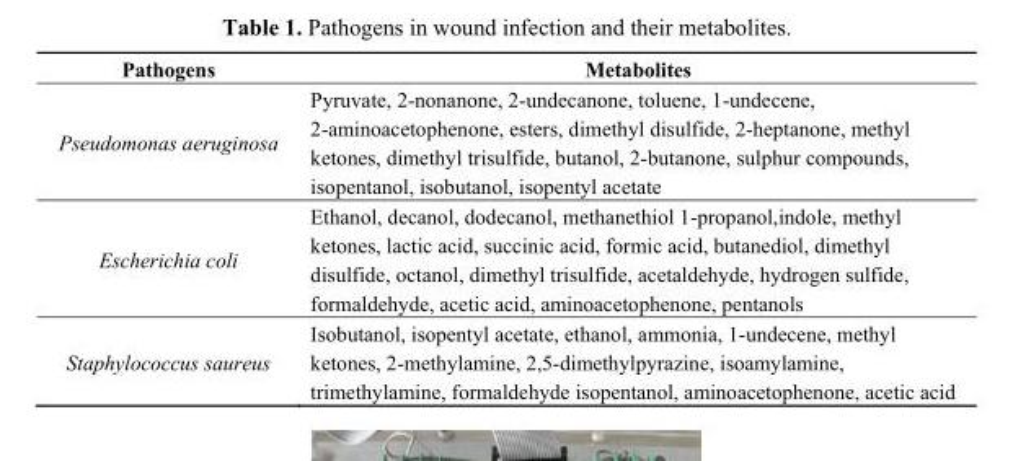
<table><thead><tr><td>Pathogens</td><td>Metabolites</td></tr></thead><tbody><tr><td>Pseudomonas aeruginosa</td><td>Pyruvate, 2-nonanone, 2-undecanone, toluene, 1-undecene, 2-aminoacetophenone, esters, dimethyl disulfide, 2-heptanone, methyl ketones, dimethyl trisulfide, butanol, 2-butanone, sulphur compounds, isopentanol, isobutanol, isopentyl acetate</td></tr><tr><td>Escherichia coli</td><td>Ethanol, decanol, dodecanol, methanethiol 1-propanol,indole, methyl ketones, lactic acid, succinic acid, formic acid, butanediol, dimethyl disulfide, octanol, dimethyl trisulfide, acetaldehyde, hydrogen sulfide, formaldehyde, acetic acid, aminoacetophenone, pentanols</td></tr><tr><td>Staphylococcus saureus</td><td>Isobutanol, isopentyl acetate, ethanol, ammonia, 1-undecene, methyl ketones, 2-methylamine, 2,5-dimethylpyrazine, isoamylamine, trimethylamine, formaldehyde isopentanol, aminoacetophenone, acetic acid</td></tr></tbody></table>